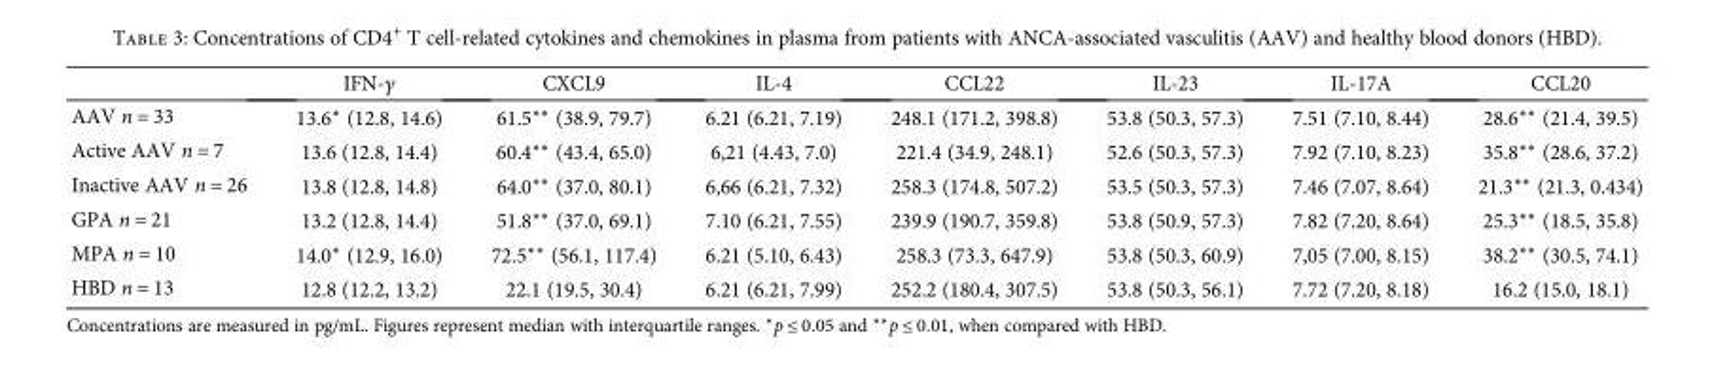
<table><thead><tr><td></td><td>IFN-γ</td><td>CXCL9</td><td>IL-4</td><td>CCL22</td><td>IL-23</td><td>IL-17A</td><td>CCL20</td></tr></thead><tbody><tr><td>AAV n = 33</td><td>13.6∗ (12.8, 14.6)</td><td>61.5∗∗ (38.9, 79.7)</td><td>6.21 (6.21, 7.19)</td><td>248.1 (171.2, 398.8)</td><td>53.8 (50.3, 57.3)</td><td>7.51 (7.10, 8.44)</td><td>28.6∗∗ (21.4, 39.5)</td></tr><tr><td>Active AAV n = 7</td><td>13.6 (12.8, 14.4)</td><td>60.4∗∗ (43.4, 65.0)</td><td>6,21 (4.43, 7.0)</td><td>221.4 (34.9, 248.1)</td><td>52.6 (50.3, 57.3)</td><td>7.92 (7.10, 8.23)</td><td>35.8∗∗ (28.6, 37.2)</td></tr><tr><td>Inactive AAV n = 26</td><td>13.8 (12.8, 14.8)</td><td>64.0∗∗ (37.0, 80.1)</td><td>6,66 (6.21, 7.32)</td><td>258.3 (174.8, 507.2)</td><td>53.5 (50.3, 57.3)</td><td>7.46 (7.07, 8.64)</td><td>21.3∗∗ (21.3, 0.434)</td></tr><tr><td>GPA n = 21</td><td>13.2 (12.8, 14.4)</td><td>51.8∗∗ (37.0, 69.1)</td><td>7.10 (6.21, 7.55)</td><td>239.9 (190.7, 359.8)</td><td>53.8 (50.9, 57.3)</td><td>7.82 (7.20, 8.64)</td><td>25.3∗∗ (18.5, 35.8)</td></tr><tr><td>MPA n = 10</td><td>14.0∗ (12.9, 16.0)</td><td>72.5∗∗ (56.1, 117.4)</td><td>6.21 (5.10, 6.43)</td><td>258.3 (73.3, 647.9)</td><td>53.8 (50.3, 60.9)</td><td>7,05 (7.00, 8.15)</td><td>38.2∗∗ (30.5, 74.1)</td></tr><tr><td>HBD n = 13</td><td>12.8 (12.2, 13.2)</td><td>22.1 (19.5, 30.4)</td><td>6.21 (6.21, 7.99)</td><td>252.2 (180.4, 307.5)</td><td>53.8 (50.3, 56.1)</td><td>7.72 (7.20, 8.18)</td><td>16.2 (15.0, 18.1)</td></tr></tbody></table>